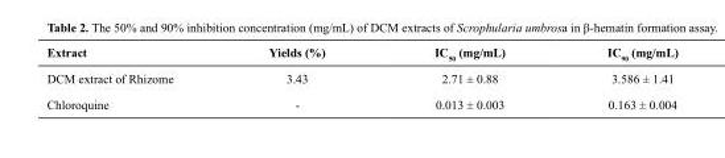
<table><thead><tr><td>Extract</td><td>Yields (%)</td><td>IC<sub>50</sub> (mg/mL)</td><td>IC<sub>90</sub> (mg/mL)</td></tr></thead><tbody><tr><td>DCM extract of Rhizome</td><td>3.43</td><td>2.71 ± 0.88</td><td>3.586 ± 1.41</td></tr><tr><td>Chloroquine</td><td>-</td><td>0.013 ± 0.003</td><td>0.163 ± 0.004</td></tr></tbody></table>